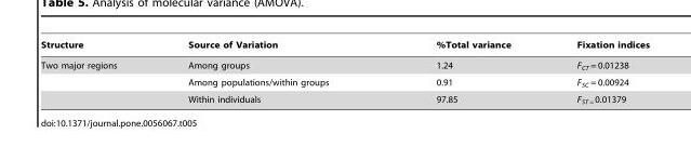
<table><thead><tr><td>Structure</td><td>Source of Variation</td><td>%Total variance</td><td>Fixation indices</td></tr></thead><tbody><tr><td rowspan="3">Two major regions</td><td>Among groups</td><td>1.24</td><td>F<sub>CT</sub> = 0.01238</td></tr><tr><td>Among populations/within groups</td><td>0.91</td><td>F<sub>SC</sub> = 0.00924</td></tr><tr><td>Within individuals</td><td>97.85</td><td>F<sub>ST =</sub>0.01379</td></tr></tbody></table>